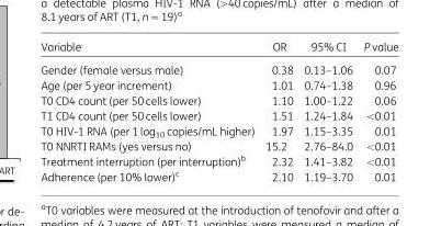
<table><thead><tr><td>Variable</td><td>OR</td><td>95% CI</td><td>P value</td></tr></thead><tbody><tr><td>Gender (female versus male)</td><td>0.38</td><td>0.13–1.06</td><td>0.07</td></tr><tr><td>Age (per 5 year increment)</td><td>1.01</td><td>0.74–1.38</td><td>0.96</td></tr><tr><td>T0 CD4 count (per 50 cells lower)</td><td>1.10</td><td>1.00–1.22</td><td>0.06</td></tr><tr><td>T1 CD4 count (per 50 cells lower)</td><td>1.51</td><td>1.24–1.84</td><td>&lt;0.01</td></tr><tr><td>T0 HIV-1 RNA (per 1 log<sub>10</sub> copies/mL higher)</td><td>1.97</td><td>1.15–3.35</td><td>0.01</td></tr><tr><td>T0 NNRTI RAMs (yes versus no)</td><td>15.2</td><td>2.76–84.0</td><td>&lt;0.01</td></tr><tr><td>Treatment interruption (per interruption)<sup>b</sup></td><td>2.32</td><td>1.41–3.82</td><td>&lt;0.01</td></tr><tr><td>Adherence (per 10% lower)<sup>c</sup></td><td>2.10</td><td>1.19–3.70</td><td>0.01</td></tr></tbody></table>